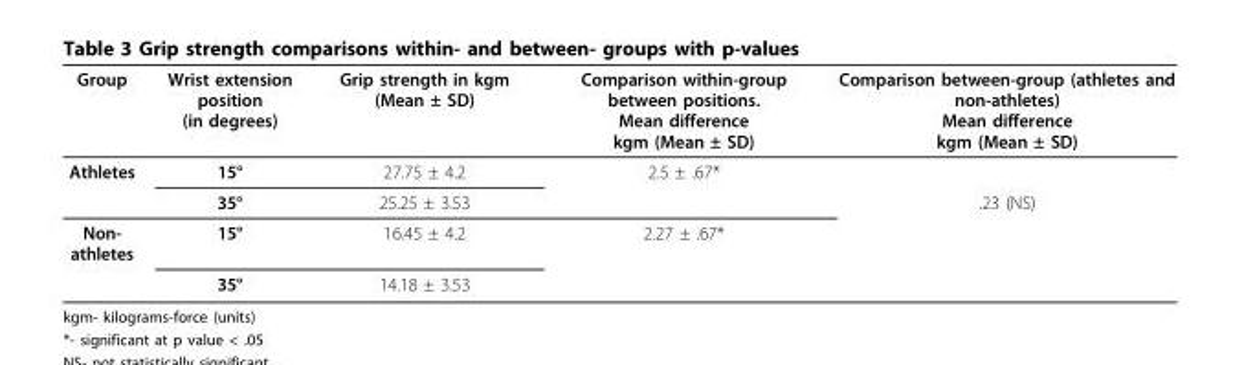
<table><thead><tr><td>Group</td><td>Wrist extension position (in degrees)</td><td>Grip strength in kgm (Mean ± SD)</td><td>Comparison within-group between positions. Mean difference kgm (Mean ± SD)</td><td>Comparison between-group (athletes and non-athletes) Mean difference kgm (Mean ± SD)</td></tr></thead><tbody><tr><td rowspan="2">Athletes</td><td>15°</td><td>27.75 ± 4.2</td><td>2.5 ± .67*</td><td></td></tr><tr><td>35°</td><td>25.25 ± 3.53</td><td></td><td>.23 (NS)</td></tr><tr><td rowspan="2">Non- athletes</td><td>15°</td><td>16.45 ± 4.2</td><td>2.27 ± .67*</td><td></td></tr><tr><td>35°</td><td>14.18 ± 3.53</td><td></td><td></td></tr></tbody></table>